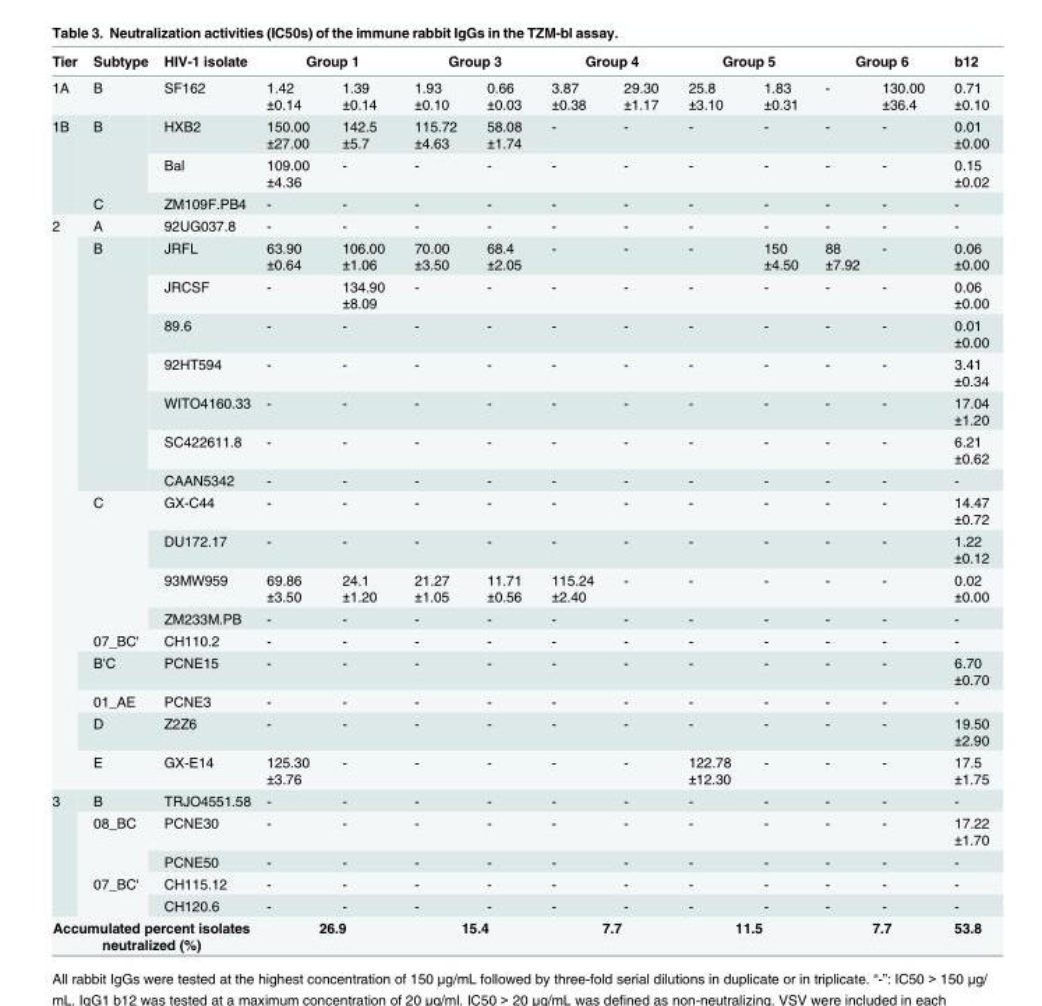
<table><thead><tr><td rowspan="2">Tier 1A</td><td rowspan="2">Subtype B</td><td rowspan="2">HIV-1 isolate SF162</td><td colspan="2">Group 1</td><td colspan="2">Group 3</td><td colspan="2">Group 4</td><td colspan="2">Group 5</td><td colspan="2">Group 6</td><td rowspan="2">b12 0.71 ±0.10</td></tr><tr><td>1.42 ±0.14</td><td>1.39 ±0.14</td><td>1.93 ±0.10</td><td>0.66 ±0.03</td><td>3.87 ±0.38</td><td>29.30 ±1.17</td><td>25.8 ±3.10</td><td>1.83 ±0.31</td><td>-</td><td>130.00 ±36.4</td></tr></thead><tbody><tr><td rowspan="3">1B</td><td rowspan="2">B</td><td>HXB2</td><td>150.00 ±27.00</td><td>142.5 ±5.7</td><td>115.72 ±4.63</td><td>58.08 ±1.74</td><td>-</td><td>-</td><td>-</td><td>-</td><td>-</td><td>-</td><td>0.01 ±0.00</td></tr><tr><td>Bal</td><td>109.00 ±4.36</td><td>-</td><td>-</td><td>-</td><td>-</td><td>-</td><td>-</td><td>-</td><td>-</td><td>-</td><td>0.15 ±0.02</td></tr><tr><td>C</td><td>ZM109F.PB4</td><td>-</td><td>-</td><td>-</td><td>-</td><td>-</td><td>-</td><td>-</td><td>-</td><td>-</td><td>-</td><td>-</td></tr><tr><td rowspan="17">2</td><td>A</td><td>92UG037.8</td><td>-</td><td>-</td><td>-</td><td>-</td><td>-</td><td>-</td><td>-</td><td>-</td><td>-</td><td>-</td><td>-</td></tr><tr><td rowspan="7">B</td><td>JRFL</td><td>63.90 ±0.64</td><td>106.00 ±1.06</td><td>70.00 ±3.50</td><td>68.4 ±2.05</td><td>-</td><td>-</td><td>-</td><td>150 ±4.50</td><td>88 ±7.92</td><td>-</td><td>0.06 ±0.00</td></tr><tr><td>JRCSF</td><td>-</td><td>134.90 ±8.09</td><td>-</td><td>-</td><td>-</td><td>-</td><td>-</td><td>-</td><td>-</td><td>-</td><td>0.06 ±0.00</td></tr><tr><td>89.6</td><td>-</td><td>-</td><td>-</td><td>-</td><td>-</td><td>-</td><td>-</td><td>-</td><td>-</td><td>-</td><td>0.01 ±0.00</td></tr><tr><td>92HT594</td><td>-</td><td>-</td><td>-</td><td>-</td><td>-</td><td>-</td><td>-</td><td>-</td><td>-</td><td>-</td><td>3.41 ±0.34</td></tr><tr><td>WITO4160.33</td><td>-</td><td>-</td><td>-</td><td>-</td><td>-</td><td>-</td><td>-</td><td>-</td><td>-</td><td>-</td><td>17.04 ±1.20</td></tr><tr><td>SC422611.8</td><td>-</td><td>-</td><td>-</td><td>-</td><td>-</td><td>-</td><td>-</td><td>-</td><td>-</td><td>-</td><td>6.21 ±0.62</td></tr><tr><td>CAAN5342</td><td>-</td><td>-</td><td>-</td><td>-</td><td>-</td><td>-</td><td>-</td><td>-</td><td>-</td><td>-</td><td>-</td></tr><tr><td rowspan="4">C</td><td>GX-C44</td><td>-</td><td>-</td><td>-</td><td>-</td><td>-</td><td>-</td><td>-</td><td>-</td><td>-</td><td>-</td><td>14.47 ±0.72</td></tr><tr><td>DU172.17</td><td>-</td><td>-</td><td>-</td><td>-</td><td>-</td><td>-</td><td>-</td><td>-</td><td>-</td><td>-</td><td>1.22 ±0.12</td></tr><tr><td>93MW959</td><td>69.86 ±3.50</td><td>24.1 ±1.20</td><td>21.27 ±1.05</td><td>11.71 ±0.56</td><td>115.24 ±2.40</td><td>-</td><td>-</td><td>-</td><td>-</td><td>-</td><td>0.02 ±0.00</td></tr><tr><td>ZM233M.PB</td><td>-</td><td>-</td><td>-</td><td>-</td><td>-</td><td>-</td><td>-</td><td>-</td><td>-</td><td>-</td><td>-</td></tr><tr><td>07_BC&#x27;</td><td>CH110.2</td><td>-</td><td>-</td><td>-</td><td>-</td><td>-</td><td>-</td><td>-</td><td>-</td><td>-</td><td>-</td><td>-</td></tr><tr><td>B&#x27;C</td><td>PCNE15</td><td>-</td><td>-</td><td>-</td><td>-</td><td>-</td><td>-</td><td>-</td><td>-</td><td>-</td><td>-</td><td>6.70 ±0.70</td></tr><tr><td>01_AE</td><td>PCNE3</td><td>-</td><td>-</td><td>-</td><td>-</td><td>-</td><td>-</td><td>-</td><td>-</td><td>-</td><td>-</td><td>-</td></tr><tr><td>D</td><td>Z2Z6</td><td>-</td><td>-</td><td>-</td><td>-</td><td>-</td><td>-</td><td>-</td><td>-</td><td>-</td><td>-</td><td>19.50 ±2.90</td></tr><tr><td>E</td><td>GX-E14</td><td>125.30 ±3.76</td><td>-</td><td>-</td><td>-</td><td>-</td><td>-</td><td>122.78 ±12.30</td><td>-</td><td>-</td><td>-</td><td>17.5 ±1.75</td></tr><tr><td rowspan="5">3</td><td>B</td><td>TRJO4551.58</td><td>-</td><td>-</td><td>-</td><td>-</td><td>-</td><td>-</td><td>-</td><td>-</td><td>-</td><td>-</td><td>-</td></tr><tr><td rowspan="2">08_BC</td><td>PCNE30</td><td>-</td><td>-</td><td>-</td><td>-</td><td>-</td><td>-</td><td>-</td><td>-</td><td>-</td><td>-</td><td>17.22 ±1.70</td></tr><tr><td>PCNE50</td><td>-</td><td>-</td><td>-</td><td>-</td><td>-</td><td>-</td><td>-</td><td>-</td><td>-</td><td>-</td><td>-</td></tr><tr><td rowspan="2">07_BC&#x27;</td><td>CH115.12</td><td>-</td><td>-</td><td>-</td><td>-</td><td>-</td><td>-</td><td>-</td><td>-</td><td>-</td><td>-</td><td>-</td></tr><tr><td>CH120.6</td><td>-</td><td>-</td><td>-</td><td>-</td><td>-</td><td>-</td><td>-</td><td>-</td><td>-</td><td>-</td><td>-</td></tr><tr><td colspan="3">Accumulated percent isolates neutralized (%)</td><td colspan="2">26.9</td><td colspan="2">15.4</td><td colspan="2">7.7</td><td colspan="2">11.5</td><td colspan="2">7.7</td><td>53.8</td></tr></tbody></table>